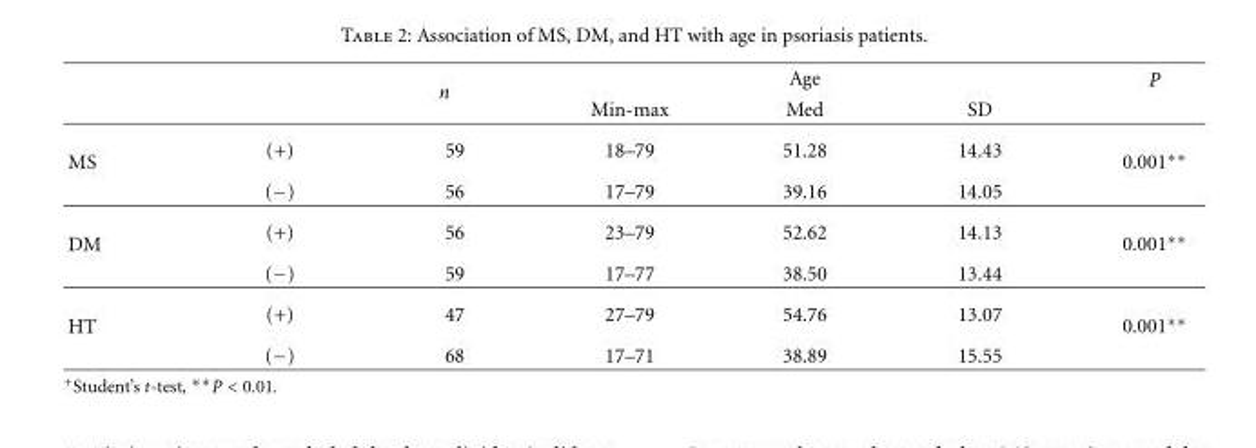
<table><thead><tr><td rowspan="2"></td><td rowspan="2"></td><td rowspan="2">n</td><td colspan="3">Age</td><td rowspan="2">P</td></tr><tr><td>Min-max</td><td>Med</td><td>SD</td></tr></thead><tbody><tr><td rowspan="2">MS</td><td>(+)</td><td>59</td><td>18–79</td><td>51.28</td><td>14.43</td><td>0.001∗∗</td></tr><tr><td>(−)</td><td>56</td><td>17–79</td><td>39.16</td><td>14.05</td><td></td></tr><tr><td rowspan="2">DM</td><td>(+)</td><td>56</td><td>23–79</td><td>52.62</td><td>14.13</td><td>0.001∗∗</td></tr><tr><td>(−)</td><td>59</td><td>17–77</td><td>38.50</td><td>13.44</td><td></td></tr><tr><td rowspan="2">HT</td><td>(+)</td><td>47</td><td>27–79</td><td>54.76</td><td>13.07</td><td>0.001∗∗</td></tr><tr><td>(−)</td><td>68</td><td>17–71</td><td>38.89</td><td>15.55</td><td></td></tr></tbody></table>